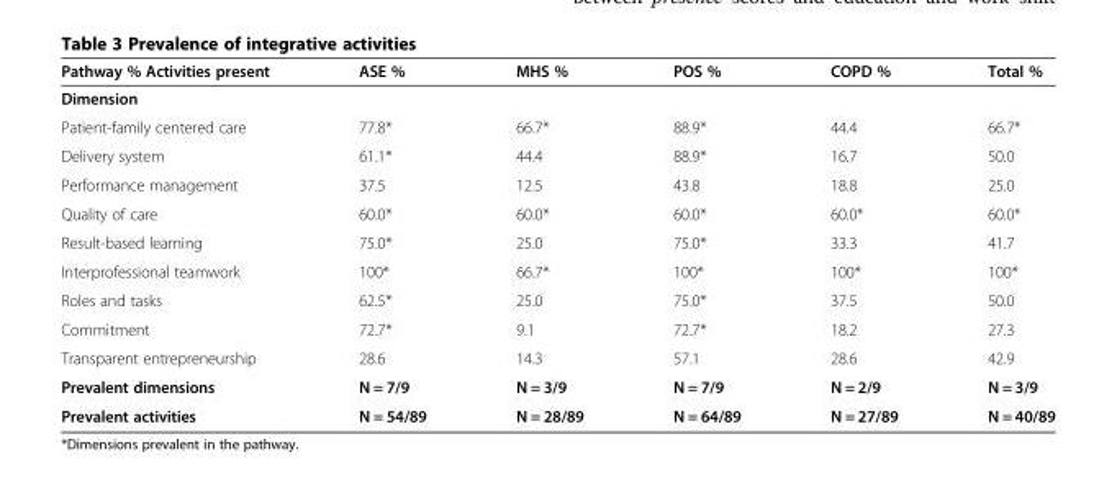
<table><thead><tr><td>Pathway % Activities present</td><td>ASE %</td><td>MHS %</td><td>POS %</td><td>COPD %</td><td>Total %</td></tr></thead><tbody><tr><td colspan="6">Dimension</td></tr><tr><td>Patient-family centered care</td><td>77.8*</td><td>66.7*</td><td>88.9*</td><td>44.4</td><td>66.7*</td></tr><tr><td>Delivery system</td><td>61.1*</td><td>44.4</td><td>88.9*</td><td>16.7</td><td>50.0</td></tr><tr><td>Performance management</td><td>37.5</td><td>12.5</td><td>43.8</td><td>18.8</td><td>25.0</td></tr><tr><td>Quality of care</td><td>60.0*</td><td>60.0*</td><td>60.0*</td><td>60.0*</td><td>60.0*</td></tr><tr><td>Result-based learning</td><td>75.0*</td><td>25.0</td><td>75.0*</td><td>33.3</td><td>41.7</td></tr><tr><td>Interprofessional teamwork</td><td>100*</td><td>66.7*</td><td>100*</td><td>100*</td><td>100*</td></tr><tr><td>Roles and tasks</td><td>62.5*</td><td>25.0</td><td>75.0*</td><td>37.5</td><td>50.0</td></tr><tr><td>Commitment</td><td>72.7*</td><td>9.1</td><td>72.7*</td><td>18.2</td><td>27.3</td></tr><tr><td>Transparent entrepreneurship</td><td>28.6</td><td>14.3</td><td>57.1</td><td>28.6</td><td>42.9</td></tr><tr><td>Prevalent dimensions</td><td>N = 7/9</td><td>N = 3/9</td><td>N = 7/9</td><td>N = 2/9</td><td>N = 3/9</td></tr><tr><td>Prevalent activities</td><td>N = 54/89</td><td>N = 28/89</td><td>N = 64/89</td><td>N = 27/89</td><td>N = 40/89</td></tr></tbody></table>